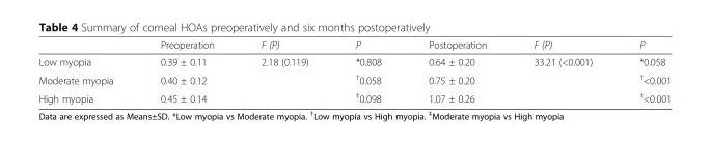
<table><thead><tr><td></td><td>Preoperation</td><td>F (P)</td><td>P</td><td>Postoperation</td><td>F (P)</td><td>P</td></tr></thead><tbody><tr><td>Low myopia</td><td>0.39 ± 0.11</td><td>2.18 (0.119)</td><td>*0.808</td><td>0.64 ± 0.20</td><td>33.21 (&lt;0.001)</td><td>*0.058</td></tr><tr><td>Moderate myopia</td><td>0.40 ± 0.12</td><td></td><td><sup>†</sup>0.058</td><td>0.75 ± 0.20</td><td></td><td><sup>†</sup>&lt;0.001</td></tr><tr><td>High myopia</td><td>0.45 ± 0.14</td><td></td><td><sup>‡</sup>0.098</td><td>1.07 ± 0.26</td><td></td><td><sup>‡</sup>&lt;0.001</td></tr></tbody></table>